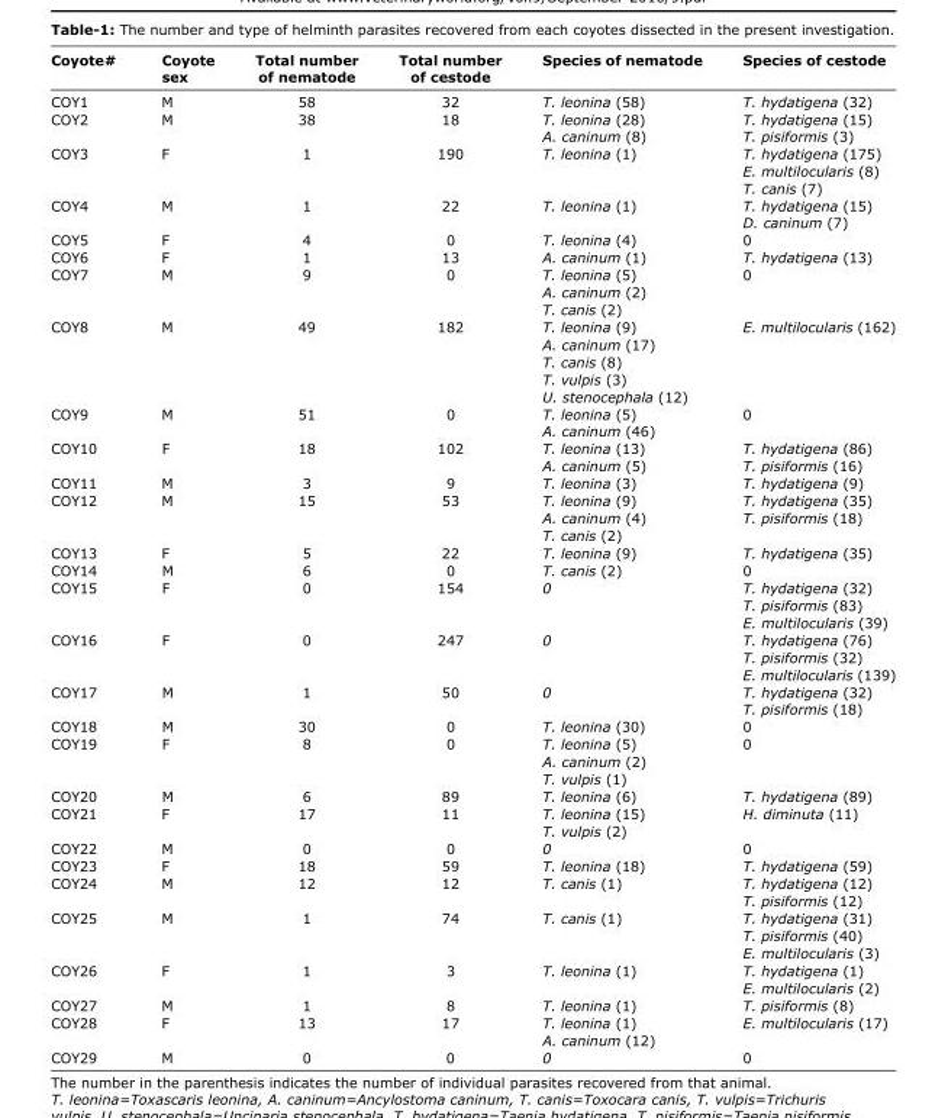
<table><thead><tr><td>Coyote#</td><td>Coyote sex</td><td>Total number of nematode</td><td>Total number of cestode</td><td>Species of nematode</td><td>Species of cestode</td></tr></thead><tbody><tr><td>COY1</td><td>M</td><td>58</td><td>32</td><td>T. leonina (58)</td><td>T. hydatigena (32)</td></tr><tr><td>COY2</td><td>M</td><td>38</td><td>18</td><td>T. leonina (28) A. caninum (8)</td><td>T. hydatigena (15) T. pisiformis (3)</td></tr><tr><td rowspan="3">COY3</td><td>F</td><td>1</td><td>190</td><td>T. leonina (1)</td><td>T. hydatigena (175)</td></tr><tr><td></td><td></td><td></td><td></td><td>E. multilocularis (8)</td></tr><tr><td></td><td></td><td></td><td></td><td>T. canis (7)</td></tr><tr><td>COY4</td><td>M</td><td>1</td><td>22</td><td>T. leonina (1)</td><td>T. hydatigena (15) D. caninum (7)</td></tr><tr><td>COY5</td><td>F</td><td>4</td><td>0</td><td>T. leonina (4)</td><td>0</td></tr><tr><td>COY6</td><td>F</td><td>1</td><td>13</td><td>A. caninum (1)</td><td>T. hydatigena (13)</td></tr><tr><td rowspan="3">COY7</td><td>M</td><td>9</td><td>0</td><td>T. leonina (5)</td><td>0</td></tr><tr><td></td><td></td><td></td><td>A. caninum (2)</td><td></td></tr><tr><td></td><td></td><td></td><td>T. canis (2)</td><td></td></tr><tr><td rowspan="5">COY8</td><td>M</td><td>49</td><td>182</td><td>T. leonina (9)</td><td>E. multilocularis (162)</td></tr><tr><td></td><td></td><td></td><td>A. caninum (17)</td><td></td></tr><tr><td></td><td></td><td></td><td>T. canis (8)</td><td></td></tr><tr><td></td><td></td><td></td><td>T. vulpis (3)</td><td></td></tr><tr><td></td><td></td><td></td><td>U. stenocephala (12)</td><td></td></tr><tr><td>COY9</td><td>M</td><td>51</td><td>0</td><td>T. leonina (5) A. caninum (46)</td><td>0</td></tr><tr><td rowspan="2">COY10</td><td>F</td><td>18</td><td>102</td><td>T. leonina (13)</td><td>T. hydatigena (86)</td></tr><tr><td></td><td></td><td></td><td>A. caninum (5)</td><td>T. pisiformis (16)</td></tr><tr><td>COY11</td><td>M</td><td>3</td><td>9</td><td>T. leonina (3)</td><td>T. hydatigena (9)</td></tr><tr><td rowspan="3">COY12</td><td>M</td><td>15</td><td>53</td><td>T. leonina (9)</td><td>T. hydatigena (35)</td></tr><tr><td></td><td></td><td></td><td>A. caninum (4)</td><td>T. pisiformis (18)</td></tr><tr><td></td><td></td><td></td><td>T. canis (2)</td><td></td></tr><tr><td>COY13</td><td>F</td><td>5</td><td>22</td><td>T. leonina (9)</td><td>T. hydatigena (35)</td></tr><tr><td>COY14</td><td>M</td><td>6</td><td>0</td><td>T. canis (2)</td><td>0</td></tr><tr><td rowspan="3">COY15</td><td>F</td><td>0</td><td>154</td><td>0</td><td>T. hydatigena (32)</td></tr><tr><td></td><td></td><td></td><td></td><td>T. pisiformis (83)</td></tr><tr><td></td><td></td><td></td><td></td><td>E. multilocularis (39)</td></tr><tr><td rowspan="3">COY16</td><td>F</td><td>0</td><td>247</td><td>0</td><td>T. hydatigena (76)</td></tr><tr><td></td><td></td><td></td><td></td><td>T. pisiformis (32)</td></tr><tr><td></td><td></td><td></td><td></td><td>E. multilocularis (139)</td></tr><tr><td>COY17</td><td>M</td><td>1</td><td>50</td><td>0</td><td>T. hydatigena (32) T. pisiformis (18)</td></tr><tr><td>COY18</td><td>M</td><td>30</td><td>0</td><td>T. leonina (30)</td><td>0</td></tr><tr><td rowspan="3">COY19</td><td>F</td><td>8</td><td>0</td><td>T. leonina (5)</td><td>0</td></tr><tr><td></td><td></td><td></td><td>A. caninum (2)</td><td></td></tr><tr><td></td><td></td><td></td><td>T. vulpis (1)</td><td></td></tr><tr><td>COY20</td><td>M</td><td>6</td><td>89</td><td>T. leonina (6)</td><td>T. hydatigena (89)</td></tr><tr><td rowspan="2">COY21</td><td>F</td><td>17</td><td>11</td><td>T. leonina (15)</td><td>H. diminuta (11)</td></tr><tr><td></td><td></td><td></td><td>T. vulpis (2)</td><td></td></tr><tr><td>COY22</td><td>M</td><td>0</td><td>0</td><td>0</td><td>0</td></tr><tr><td>COY23</td><td>F</td><td>18</td><td>59</td><td>T. leonina (18)</td><td>T. hydatigena (59)</td></tr><tr><td rowspan="2">COY24</td><td>M</td><td>12</td><td>12</td><td>T. canis (1)</td><td>T. hydatigena (12)</td></tr><tr><td></td><td></td><td></td><td></td><td>T. pisiformis (12)</td></tr><tr><td rowspan="3">COY25</td><td>M</td><td>1</td><td>74</td><td>T. canis (1)</td><td>T. hydatigena (31)</td></tr><tr><td></td><td></td><td></td><td></td><td>T. pisiformis (40)</td></tr><tr><td></td><td></td><td></td><td></td><td>E. multilocularis (3)</td></tr><tr><td rowspan="2">COY26</td><td>F</td><td>1</td><td>3</td><td>T. leonina (1)</td><td>T. hydatigena (1)</td></tr><tr><td></td><td></td><td></td><td></td><td>E. multilocularis (2)</td></tr><tr><td>COY27</td><td>M</td><td>1</td><td>8</td><td>T. leonina (1)</td><td>T. pisiformis (8)</td></tr><tr><td rowspan="2">COY28</td><td>F</td><td>13</td><td>17</td><td>T. leonina (1)</td><td>E. multilocularis (17)</td></tr><tr><td></td><td></td><td></td><td>A. caninum (12)</td><td></td></tr><tr><td>COY29</td><td>M</td><td>0</td><td>0</td><td>0</td><td>0</td></tr></tbody></table>